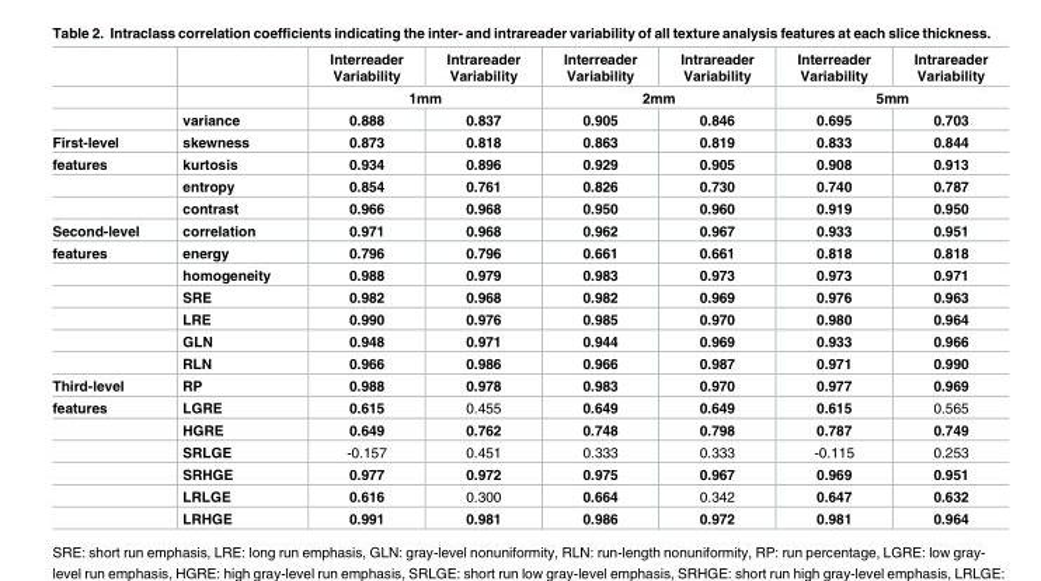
<table><thead><tr><td rowspan="2"></td><td rowspan="2"></td><td>Interreader Variability</td><td>Intrareader Variability</td><td>Interreader Variability</td><td>Intrareader Variability</td><td>Interreader Variability</td><td>Intrareader Variability</td></tr><tr><td colspan="2">1mm</td><td colspan="2">2mm</td><td colspan="2">5mm</td></tr></thead><tbody><tr><td></td><td>variance</td><td>0.888</td><td>0.837</td><td>0.905</td><td>0.846</td><td>0.695</td><td>0.703</td></tr><tr><td>First-level</td><td>skewness</td><td>0.873</td><td>0.818</td><td>0.863</td><td>0.819</td><td>0.833</td><td>0.844</td></tr><tr><td rowspan="3">features</td><td>kurtosis</td><td>0.934</td><td>0.896</td><td>0.929</td><td>0.905</td><td>0.908</td><td>0.913</td></tr><tr><td>entropy</td><td>0.854</td><td>0.761</td><td>0.826</td><td>0.730</td><td>0.740</td><td>0.787</td></tr><tr><td>contrast</td><td>0.966</td><td>0.968</td><td>0.950</td><td>0.960</td><td>0.919</td><td>0.950</td></tr><tr><td>Second-level</td><td>correlation</td><td>0.971</td><td>0.968</td><td>0.962</td><td>0.967</td><td>0.933</td><td>0.951</td></tr><tr><td rowspan="6">features</td><td>energy</td><td>0.796</td><td>0.796</td><td>0.661</td><td>0.661</td><td>0.818</td><td>0.818</td></tr><tr><td>homogeneity</td><td>0.988</td><td>0.979</td><td>0.983</td><td>0.973</td><td>0.973</td><td>0.971</td></tr><tr><td>SRE</td><td>0.982</td><td>0.968</td><td>0.982</td><td>0.969</td><td>0.976</td><td>0.963</td></tr><tr><td>LRE</td><td>0.990</td><td>0.976</td><td>0.985</td><td>0.970</td><td>0.980</td><td>0.964</td></tr><tr><td>GLN</td><td>0.948</td><td>0.971</td><td>0.944</td><td>0.969</td><td>0.933</td><td>0.966</td></tr><tr><td>RLN</td><td>0.966</td><td>0.986</td><td>0.966</td><td>0.987</td><td>0.971</td><td>0.990</td></tr><tr><td>Third-level</td><td>RP</td><td>0.988</td><td>0.978</td><td>0.983</td><td>0.970</td><td>0.977</td><td>0.969</td></tr><tr><td rowspan="6">features</td><td>LGRE</td><td>0.615</td><td>0.455</td><td>0.649</td><td>0.649</td><td>0.615</td><td>0.565</td></tr><tr><td>HGRE</td><td>0.649</td><td>0.762</td><td>0.748</td><td>0.798</td><td>0.787</td><td>0.749</td></tr><tr><td>SRLGE</td><td>-0.157</td><td>0.451</td><td>0.333</td><td>0.333</td><td>-0.115</td><td>0.253</td></tr><tr><td>SRHGE</td><td>0.977</td><td>0.972</td><td>0.975</td><td>0.967</td><td>0.969</td><td>0.951</td></tr><tr><td>LRLGE</td><td>0.616</td><td>0.300</td><td>0.664</td><td>0.342</td><td>0.647</td><td>0.632</td></tr><tr><td>LRHGE</td><td>0.991</td><td>0.981</td><td>0.986</td><td>0.972</td><td>0.981</td><td>0.964</td></tr></tbody></table>